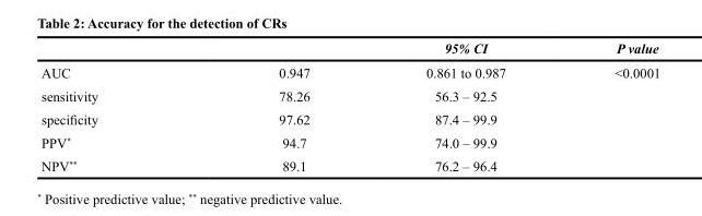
<table><thead><tr><td></td><td></td><td>95% CI</td><td>P value</td></tr></thead><tbody><tr><td>AUC</td><td>0.947</td><td>0.861 to 0.987</td><td>&lt;0.0001</td></tr><tr><td>sensitivity</td><td>78.26</td><td>56.3 – 92.5</td><td></td></tr><tr><td>specificity</td><td>97.62</td><td>87.4 – 99.9</td><td></td></tr><tr><td>PPV*</td><td>94.7</td><td>74.0 – 99.9</td><td></td></tr><tr><td>NPV**</td><td>89.1</td><td>76.2 – 96.4</td><td></td></tr></tbody></table>